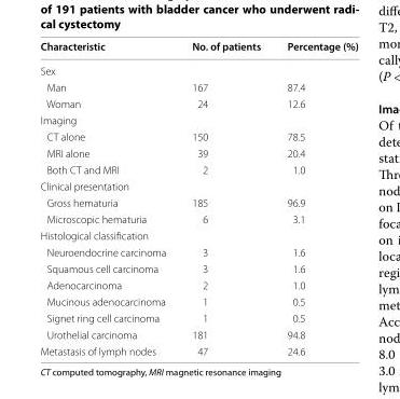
<table><thead><tr><td>Characteristic</td><td>No. of patients</td><td>Percentage (%)</td></tr></thead><tbody><tr><td colspan="3">Sex</td></tr><tr><td>Man</td><td>167</td><td>87.4</td></tr><tr><td>Woman</td><td>24</td><td>12.6</td></tr><tr><td colspan="3">Imaging</td></tr><tr><td>CT alone</td><td>150</td><td>78.5</td></tr><tr><td>MRI alone</td><td>39</td><td>20.4</td></tr><tr><td>Both CT and MRI</td><td>2</td><td>1.0</td></tr><tr><td colspan="3">Clinical presentation</td></tr><tr><td>Gross hematuria</td><td>185</td><td>96.9</td></tr><tr><td>Microscopic hematuria</td><td>6</td><td>3.1</td></tr><tr><td colspan="3">Histological classification</td></tr><tr><td>Neuroendocrine carcinoma</td><td>3</td><td>1.6</td></tr><tr><td>Squamous cell carcinoma</td><td>3</td><td>1.6</td></tr><tr><td>Adenocarcinoma</td><td>2</td><td>1.0</td></tr><tr><td>Mucinous adenocarcinoma</td><td>1</td><td>0.5</td></tr><tr><td>Signet ring cell carcinoma</td><td>1</td><td>0.5</td></tr><tr><td>Urothelial carcinoma</td><td>181</td><td>94.8</td></tr><tr><td>Metastasis of lymph nodes</td><td>47</td><td>24.6</td></tr></tbody></table>